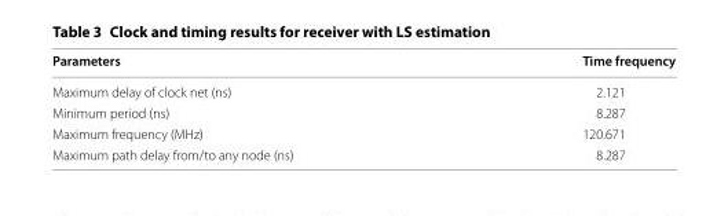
<table><thead><tr><td>Parameters</td><td>Time frequency</td></tr></thead><tbody><tr><td>Maximum delay of clock net (ns)</td><td>2.121</td></tr><tr><td>Minimum period (ns)</td><td>8.287</td></tr><tr><td>Maximum frequency (MHz)</td><td>120.671</td></tr><tr><td>Maximum path delay from/to any node (ns)</td><td>8.287</td></tr></tbody></table>